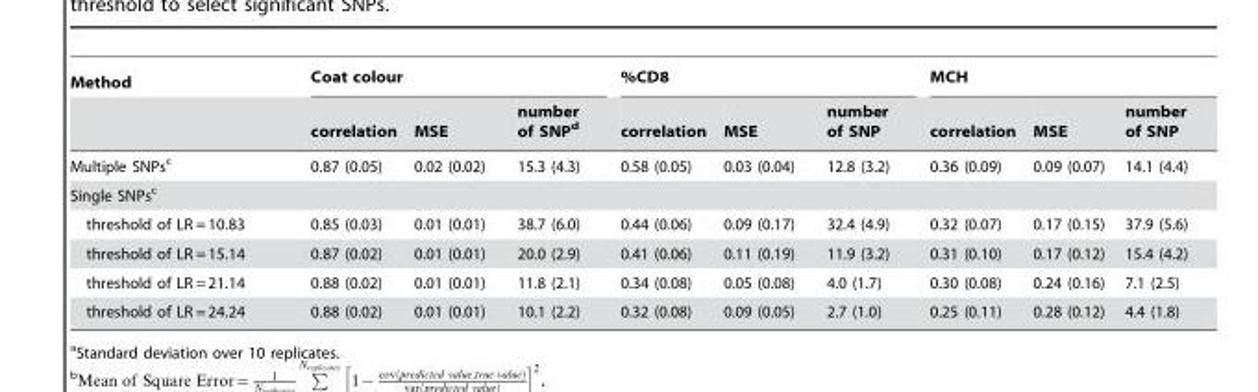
<table><thead><tr><td rowspan="2">Method</td><td colspan="3">Coat colour</td><td colspan="3">%CD8</td><td colspan="3">MCH</td></tr><tr><td>correlation</td><td>MSE</td><td>number of SNP<sup>d</sup></td><td>correlation</td><td>MSE</td><td>number of SNP</td><td>correlation</td><td>MSE</td><td>number of SNP</td></tr></thead><tbody><tr><td>Multiple SNPs<sup>c</sup></td><td>0.87 (0.05)</td><td>0.02 (0.02)</td><td>15.3 (4.3)</td><td>0.58 (0.05)</td><td>0.03 (0.04)</td><td>12.8 (3.2)</td><td>0.36 (0.09)</td><td>0.09 (0.07)</td><td>14.1 (4.4)</td></tr><tr><td colspan="10">Single SNPs<sup>c</sup></td></tr><tr><td>threshold of LR = 10.83</td><td>0.85 (0.03)</td><td>0.01 (0.01)</td><td>38.7 (6.0)</td><td>0.44 (0.06)</td><td>0.09 (0.17)</td><td>32.4 (4.9)</td><td>0.32 (0.07)</td><td>0.17 (0.15)</td><td>37.9 (5.6)</td></tr><tr><td>threshold of LR = 15.14</td><td>0.87 (0.02)</td><td>0.01 (0.01)</td><td>20.0 (2.9)</td><td>0.41 (0.06)</td><td>0.11 (0.19)</td><td>11.9 (3.2)</td><td>0.31 (0.10)</td><td>0.17 (0.12)</td><td>15.4 (4.2)</td></tr><tr><td>threshold of LR = 21.14</td><td>0.88 (0.02)</td><td>0.01 (0.01)</td><td>11.8 (2.1)</td><td>0.34 (0.08)</td><td>0.05 (0.08)</td><td>4.0 (1.7)</td><td>0.30 (0.08)</td><td>0.24 (0.16)</td><td>7.1 (2.5)</td></tr><tr><td>threshold of LR = 24.24</td><td>0.88 (0.02)</td><td>0.01 (0.01)</td><td>10.1 (2.2)</td><td>0.32 (0.08)</td><td>0.09 (0.05)</td><td>2.7 (1.0)</td><td>0.25 (0.11)</td><td>0.28 (0.12)</td><td>4.4 (1.8)</td></tr></tbody></table>